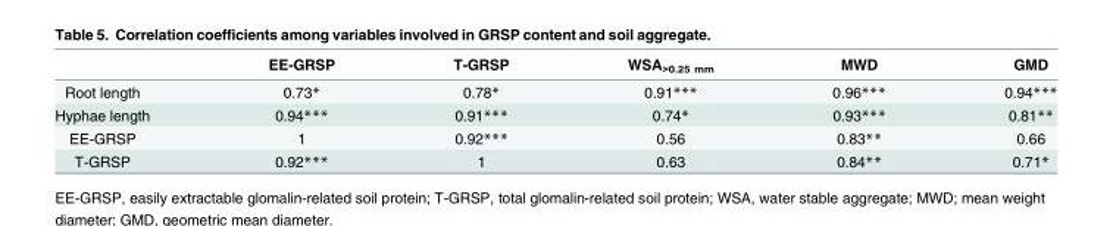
<table><thead><tr><td></td><td>EE-GRSP</td><td>T-GRSP</td><td>WSA<sub>&gt;0.25 mm</sub></td><td>MWD</td><td>GMD</td></tr></thead><tbody><tr><td>Root length</td><td>0.73*</td><td>0.78*</td><td>0.91***</td><td>0.96***</td><td>0.94***</td></tr><tr><td>Hyphae length</td><td>0.94***</td><td>0.91***</td><td>0.74*</td><td>0.93***</td><td>0.81**</td></tr><tr><td>EE-GRSP</td><td>1</td><td>0.92***</td><td>0.56</td><td>0.83**</td><td>0.66</td></tr><tr><td>T-GRSP</td><td>0.92***</td><td>1</td><td>0.63</td><td>0.84**</td><td>0.71*</td></tr></tbody></table>